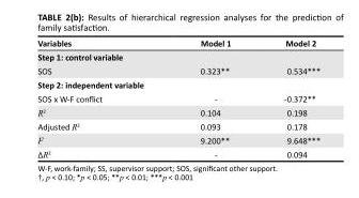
<table><thead><tr><td>Variables</td><td>Model 1</td><td>Model 2</td></tr></thead><tbody><tr><td colspan="3">Step 1: control variable</td></tr><tr><td>SOS</td><td>0.323**</td><td>0.534***</td></tr><tr><td colspan="3">Step 2: independent variable</td></tr><tr><td>SOS x W-F conflict</td><td>-</td><td>-0.372**</td></tr><tr><td>R<sup>2</sup></td><td>0.104</td><td>0.198</td></tr><tr><td>Adjusted R<sup>2</sup></td><td>0.093</td><td>0.178</td></tr><tr><td>F</td><td>9.200**</td><td>9.648***</td></tr><tr><td>∆R<sup>2</sup></td><td>-</td><td>0.094</td></tr></tbody></table>